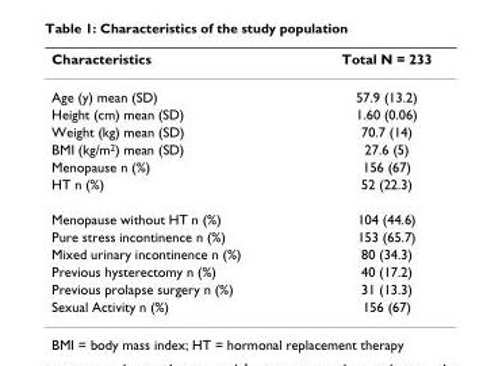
<table><thead><tr><td>Characteristics</td><td>Total N = 233</td></tr></thead><tbody><tr><td>Age (y) mean (SD)</td><td>57.9 (13.2)</td></tr><tr><td>Height (cm) mean (SD)</td><td>1.60 (0.06)</td></tr><tr><td>Weight (kg) mean (SD)</td><td>70.7 (14)</td></tr><tr><td>BMI (kg/m<sup>2</sup>) mean (SD)</td><td>27.6 (5)</td></tr><tr><td>Menopause n (%)</td><td>156 (67)</td></tr><tr><td>HT n (%)</td><td>52 (22.3)</td></tr><tr><td>Menopause without HT n (%)</td><td>104 (44.6)</td></tr><tr><td>Pure stress incontinence n (%)</td><td>153 (65.7)</td></tr><tr><td>Mixed urinary incontinence n (%)</td><td>80 (34.3)</td></tr><tr><td>Previous hysterectomy n (%)</td><td>40 (17.2)</td></tr><tr><td>Previous prolapse surgery n (%)</td><td>31 (13.3)</td></tr><tr><td>Sexual Activity n (%)</td><td>156 (67)</td></tr></tbody></table>